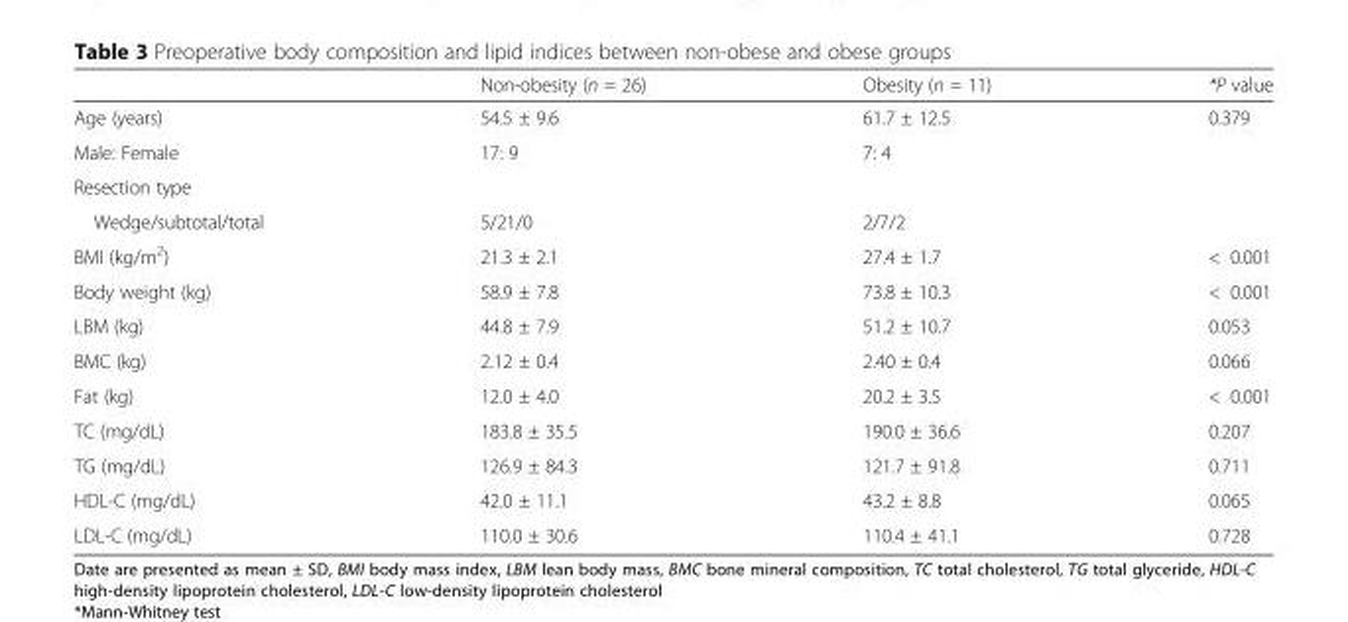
<table><thead><tr><td></td><td>Non-obesity (n = 26)</td><td>Obesity (n = 11)</td><td>*P value</td></tr></thead><tbody><tr><td>Age (years)</td><td>54.5 ± 9.6</td><td>61.7 ± 12.5</td><td>0.379</td></tr><tr><td>Male: Female</td><td>17: 9</td><td>7: 4</td><td></td></tr><tr><td colspan="4">Resection type</td></tr><tr><td>Wedge/subtotal/total</td><td>5/21/0</td><td>2/7/2</td><td></td></tr><tr><td>BMI (kg/m<sup>2</sup>)</td><td>21.3 ± 2.1</td><td>27.4 ± 1.7</td><td>&lt; 0.001</td></tr><tr><td>Body weight (kg)</td><td>58.9 ± 7.8</td><td>73.8 ± 10.3</td><td>&lt; 0.001</td></tr><tr><td>LBM (kg)</td><td>44.8 ± 7.9</td><td>51.2 ± 10.7</td><td>0.053</td></tr><tr><td>BMC (kg)</td><td>2.12 ± 0.4</td><td>2.40 ± 0.4</td><td>0.066</td></tr><tr><td>Fat (kg)</td><td>12.0 ± 4.0</td><td>20.2 ± 3.5</td><td>&lt; 0.001</td></tr><tr><td>TC (mg/dL)</td><td>183.8 ± 35.5</td><td>190.0 ± 36.6</td><td>0.207</td></tr><tr><td>TG (mg/dL)</td><td>126.9 ± 84.3</td><td>121.7 ± 91.8</td><td>0.711</td></tr><tr><td>HDL-C (mg/dL)</td><td>42.0 ± 11.1</td><td>43.2 ± 8.8</td><td>0.065</td></tr><tr><td>LDL-C (mg/dL)</td><td>110.0 ± 30.6</td><td>110.4 ± 41.1</td><td>0.728</td></tr></tbody></table>